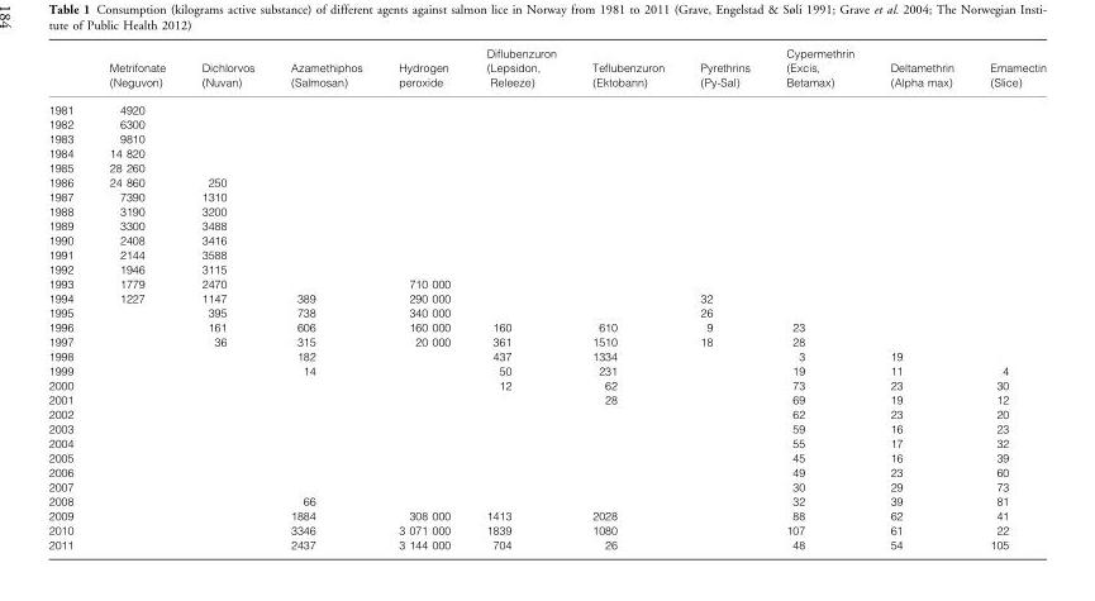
<table><thead><tr><td></td><td>Metrifonate (Neguvon)</td><td>Dichlorvos (Nuvan)</td><td>Azamethiphos (Salmosan)</td><td>Hydrogen peroxide</td><td>Diflubenzuron (Lepsidon, Releeze)</td><td>Teflubenzuron (Ektobann)</td><td>Pyrethrins (Py-Sal)</td><td>Cypermethrin (Excis, Betamax)</td><td>Deltamethrin (Alpha max)</td><td>Emamectin (Slice)</td></tr></thead><tbody><tr><td>1981</td><td>4920</td><td></td><td></td><td></td><td></td><td></td><td></td><td></td><td></td><td></td></tr><tr><td>1982</td><td>6300</td><td></td><td></td><td></td><td></td><td></td><td></td><td></td><td></td><td></td></tr><tr><td>1983</td><td>9810</td><td></td><td></td><td></td><td></td><td></td><td></td><td></td><td></td><td></td></tr><tr><td>1984</td><td>14 820</td><td></td><td></td><td></td><td></td><td></td><td></td><td></td><td></td><td></td></tr><tr><td>1985</td><td>28 260</td><td></td><td></td><td></td><td></td><td></td><td></td><td></td><td></td><td></td></tr><tr><td>1986</td><td>24 860</td><td>250</td><td></td><td></td><td></td><td></td><td></td><td></td><td></td><td></td></tr><tr><td>1987</td><td>7390</td><td>1310</td><td></td><td></td><td></td><td></td><td></td><td></td><td></td><td></td></tr><tr><td>1988</td><td>3190</td><td>3200</td><td></td><td></td><td></td><td></td><td></td><td></td><td></td><td></td></tr><tr><td>1989</td><td>3300</td><td>3488</td><td></td><td></td><td></td><td></td><td></td><td></td><td></td><td></td></tr><tr><td>1990</td><td>2408</td><td>3416</td><td></td><td></td><td></td><td></td><td></td><td></td><td></td><td></td></tr><tr><td>1991</td><td>2144</td><td>3588</td><td></td><td></td><td></td><td></td><td></td><td></td><td></td><td></td></tr><tr><td>1992</td><td>1946</td><td>3115</td><td></td><td></td><td></td><td></td><td></td><td></td><td></td><td></td></tr><tr><td>1993</td><td>1779</td><td>2470</td><td></td><td>710 000</td><td></td><td></td><td></td><td></td><td></td><td></td></tr><tr><td>1994</td><td>1227</td><td>1147</td><td>389</td><td>290 000</td><td></td><td></td><td>32</td><td></td><td></td><td></td></tr><tr><td>1995</td><td></td><td>395</td><td>738</td><td>340 000</td><td></td><td></td><td>26</td><td></td><td></td><td></td></tr><tr><td>1996</td><td></td><td>161</td><td>606</td><td>160 000</td><td>160</td><td>610</td><td>9</td><td>23</td><td></td><td></td></tr><tr><td>1997</td><td></td><td>36</td><td>315</td><td>20 000</td><td>361</td><td>1510</td><td>18</td><td>28</td><td></td><td></td></tr><tr><td>1998</td><td></td><td></td><td>182</td><td></td><td>437</td><td>1334</td><td></td><td>3</td><td>19</td><td></td></tr><tr><td>1999</td><td></td><td></td><td>14</td><td></td><td>50</td><td>231</td><td></td><td>19</td><td>11</td><td>4</td></tr><tr><td>2000</td><td></td><td></td><td></td><td></td><td>12</td><td>62</td><td></td><td>73</td><td>23</td><td>30</td></tr><tr><td>2001</td><td></td><td></td><td></td><td></td><td></td><td>28</td><td></td><td>69</td><td>19</td><td>12</td></tr><tr><td>2002</td><td></td><td></td><td></td><td></td><td></td><td></td><td></td><td>62</td><td>23</td><td>20</td></tr><tr><td>2003</td><td></td><td></td><td></td><td></td><td></td><td></td><td></td><td>59</td><td>16</td><td>23</td></tr><tr><td>2004</td><td></td><td></td><td></td><td></td><td></td><td></td><td></td><td>55</td><td>17</td><td>32</td></tr><tr><td>2005</td><td></td><td></td><td></td><td></td><td></td><td></td><td></td><td>45</td><td>16</td><td>39</td></tr><tr><td>2006</td><td></td><td></td><td></td><td></td><td></td><td></td><td></td><td>49</td><td>23</td><td>60</td></tr><tr><td>2007</td><td></td><td></td><td></td><td></td><td></td><td></td><td></td><td>30</td><td>29</td><td>73</td></tr><tr><td>2008</td><td></td><td></td><td>66</td><td></td><td></td><td></td><td></td><td>32</td><td>39</td><td>81</td></tr><tr><td>2009</td><td></td><td></td><td>1884</td><td>308 000</td><td>1413</td><td>2028</td><td></td><td>88</td><td>62</td><td>41</td></tr><tr><td>2010</td><td></td><td></td><td>3346</td><td>3 071 000</td><td>1839</td><td>1080</td><td></td><td>107</td><td>61</td><td>22</td></tr><tr><td>2011</td><td></td><td></td><td>2437</td><td>3 144 000</td><td>704</td><td>26</td><td></td><td>48</td><td>54</td><td>105</td></tr></tbody></table>